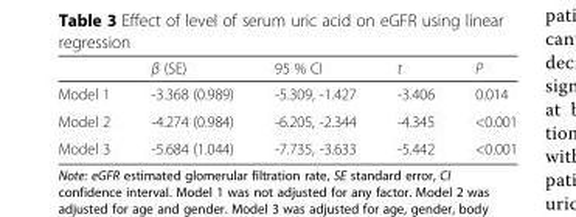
<table><thead><tr><td></td><td>β (SE)</td><td>95 % CI</td><td>t</td><td>P</td></tr></thead><tbody><tr><td>Model 1</td><td>-3.368 (0.989)</td><td>-5.309, -1.427</td><td>-3.406</td><td>0.014</td></tr><tr><td>Model 2</td><td>-4.274 (0.984)</td><td>-6.205, -2.344</td><td>-4.345</td><td>&lt;0.001</td></tr><tr><td>Model 3</td><td>-5.684 (1.044)</td><td>-7.735, -3.633</td><td>-5.442</td><td>&lt;0.001</td></tr></tbody></table>